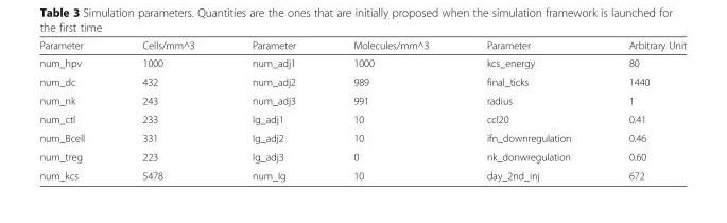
<table><thead><tr><td>Parameter</td><td>Cells/mm^3</td><td>Parameter</td><td>Molecules/mm^3</td><td>Parameter</td><td>Arbitrary Unit</td></tr></thead><tbody><tr><td>num_hpv</td><td>1000</td><td>num_adj1</td><td>1000</td><td>kcs_energy</td><td>80</td></tr><tr><td>num_dc</td><td>432</td><td>num_adj2</td><td>989</td><td>final_ticks</td><td>1440</td></tr><tr><td>num_nk</td><td>243</td><td>num_adj3</td><td>991</td><td>radius</td><td>1</td></tr><tr><td>num_ctl</td><td>233</td><td>Ig_adj1</td><td>10</td><td>ccl20</td><td>0.41</td></tr><tr><td>num_Bcell</td><td>331</td><td>Ig_adj2</td><td>10</td><td>ifn_downregulation</td><td>0.46</td></tr><tr><td>num_treg</td><td>223</td><td>Ig_adj3</td><td>0</td><td>nk_donwregulation</td><td>0.60</td></tr><tr><td>num_kcs</td><td>5478</td><td>num_Ig</td><td>10</td><td>day_2nd_inj</td><td>672</td></tr></tbody></table>